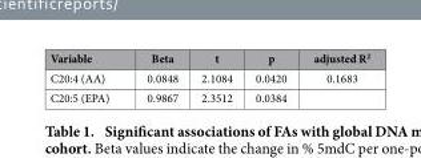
<table><thead><tr><td>Variable</td><td>Beta</td><td>t</td><td>p</td><td>adjusted R<sup>2</sup></td></tr></thead><tbody><tr><td>C20:4 (AA)</td><td>0.0848</td><td>2.1084</td><td>0.0420</td><td>0.1683</td></tr><tr><td>C20:5 (EPA)</td><td>0.9867</td><td>2.3512</td><td>0.0384</td><td></td></tr></tbody></table>